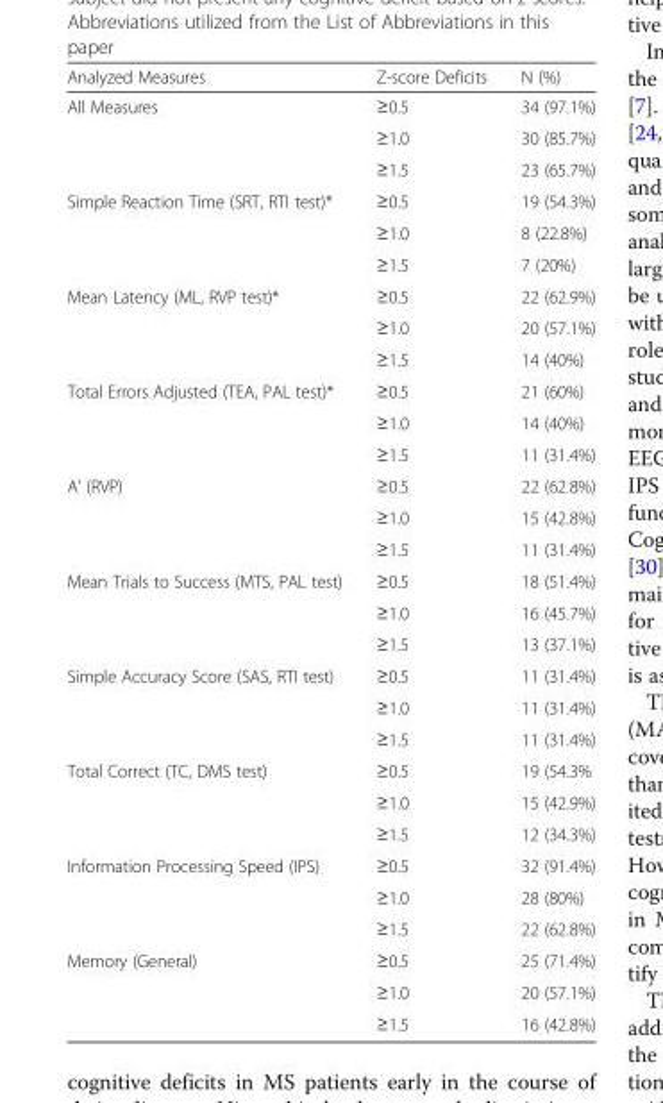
<table><thead><tr><td>Analyzed Measures</td><td>Z-score Deficits</td><td>N (%)</td></tr></thead><tbody><tr><td rowspan="3">All Measures</td><td>≥0.5</td><td>34 (97.1%)</td></tr><tr><td>≥1.0</td><td>30 (85.7%)</td></tr><tr><td>≥1.5</td><td>23 (65.7%)</td></tr><tr><td rowspan="3">Simple Reaction Time (SRT, RTI test)*</td><td>≥0.5</td><td>19 (54.3%)</td></tr><tr><td>≥1.0</td><td>8 (22.8%)</td></tr><tr><td>≥1.5</td><td>7 (20%)</td></tr><tr><td rowspan="3">Mean Latency (ML, RVP test)*</td><td>≥0.5</td><td>22 (62.9%)</td></tr><tr><td>≥1.0</td><td>20 (57.1%)</td></tr><tr><td>≥1.5</td><td>14 (40%)</td></tr><tr><td rowspan="3">Total Errors Adjusted (TEA, PAL test)*</td><td>≥0.5</td><td>21 (60%)</td></tr><tr><td>≥1.0</td><td>14 (40%)</td></tr><tr><td>≥1.5</td><td>11 (31.4%)</td></tr><tr><td rowspan="3">A’ (RVP)</td><td>≥0.5</td><td>22 (62.8%)</td></tr><tr><td>≥1.0</td><td>15 (42.8%)</td></tr><tr><td>≥1.5</td><td>11 (31.4%)</td></tr><tr><td rowspan="3">Mean Trials to Success (MTS, PAL test)</td><td>≥0.5</td><td>18 (51.4%)</td></tr><tr><td>≥1.0</td><td>16 (45.7%)</td></tr><tr><td>≥1.5</td><td>13 (37.1%)</td></tr><tr><td rowspan="3">Simple Accuracy Score (SAS, RTI test)</td><td>≥0.5</td><td>11 (31.4%)</td></tr><tr><td>≥1.0</td><td>11 (31.4%)</td></tr><tr><td>≥1.5</td><td>11 (31.4%)</td></tr><tr><td rowspan="3">Total Correct (TC, DMS test)</td><td>≥0.5</td><td>19 (54.3%</td></tr><tr><td>≥1.0</td><td>15 (42.9%)</td></tr><tr><td>≥1.5</td><td>12 (34.3%)</td></tr><tr><td rowspan="3">Information Processing Speed (IPS)</td><td>≥0.5</td><td>32 (91.4%)</td></tr><tr><td>≥1.0</td><td>28 (80%)</td></tr><tr><td>≥1.5</td><td>22 (62.8%)</td></tr><tr><td rowspan="3">Memory (General)</td><td>≥0.5</td><td>25 (71.4%)</td></tr><tr><td>≥1.0</td><td>20 (57.1%)</td></tr><tr><td>≥1.5</td><td>16 (42.8%)</td></tr></tbody></table>